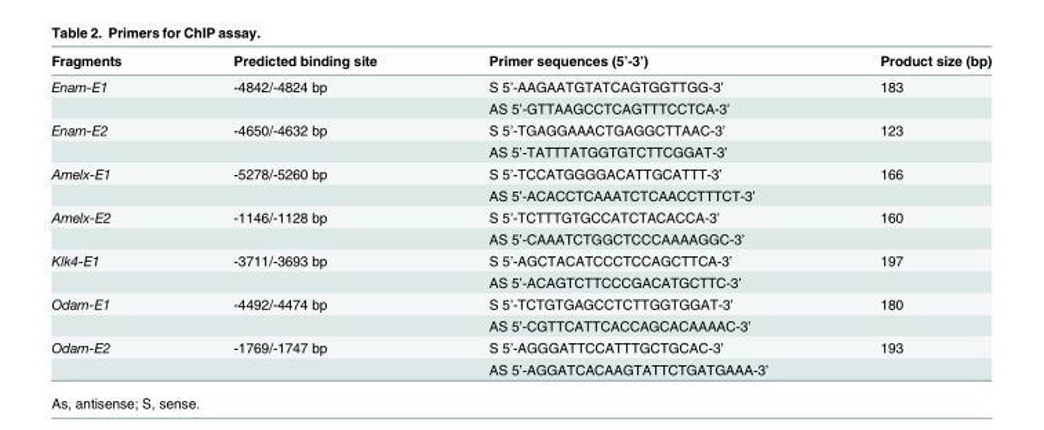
<table><thead><tr><td>Fragments</td><td>Predicted binding site</td><td>Primer sequences (5’-3’)</td><td>Product size (bp)</td></tr></thead><tbody><tr><td rowspan="2">Enam-E1</td><td>-4842/-4824 bp</td><td>S 5’-AAGAATGTATCAGTGGTTGG-3’</td><td>183</td></tr><tr><td></td><td>AS 5’-GTTAAGCCTCAGTTTCCTCA-3’</td><td></td></tr><tr><td rowspan="2">Enam-E2</td><td>-4650/-4632 bp</td><td>S 5’-TGAGGAAACTGAGGCTTAAC-3’</td><td>123</td></tr><tr><td></td><td>AS 5’-TATTTATGGTGTCTTCGGAT-3’</td><td></td></tr><tr><td rowspan="2">Amelx-E1</td><td>-5278/-5260 bp</td><td>S 5’-TCCATGGGGACATTGCATTT-3’</td><td>166</td></tr><tr><td></td><td>AS 5’-ACACCTCAAATCTCAACCTTTCT-3’</td><td></td></tr><tr><td rowspan="2">Amelx-E2</td><td>-1146/-1128 bp</td><td>S 5’-TCTTTGTGCCATCTACACCA-3’</td><td>160</td></tr><tr><td></td><td>AS 5’-CAAATCTGGCTCCCAAAAGGC-3’</td><td></td></tr><tr><td rowspan="2">Klk4-E1</td><td>-3711/-3693 bp</td><td>S 5’-AGCTACATCCCTCCAGCTTCA-3’</td><td>197</td></tr><tr><td></td><td>AS 5’-ACAGTCTTCCCGACATGCTTC-3’</td><td></td></tr><tr><td rowspan="2">Odam-E1</td><td>-4492/-4474 bp</td><td>S 5’-TCTGTGAGCCTCTTGGTGGAT-3’</td><td>180</td></tr><tr><td></td><td>AS 5’-CGTTCATTCACCAGCACAAAAC-3’</td><td></td></tr><tr><td rowspan="2">Odam-E2</td><td>-1769/-1747 bp</td><td>S 5’-AGGGATTCCATTTGCTGCAC-3’</td><td>193</td></tr><tr><td></td><td>AS 5’-AGGATCACAAGTATTCTGATGAAA-3’</td><td></td></tr></tbody></table>